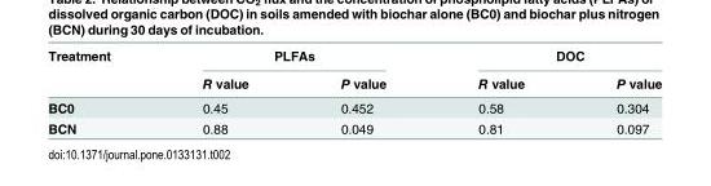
<table><thead><tr><td rowspan="2">Treatment</td><td colspan="2">PLFAs</td><td colspan="2">DOC</td></tr><tr><td>R value</td><td>P value</td><td>R value</td><td>P value</td></tr></thead><tbody><tr><td>BC0</td><td>0.45</td><td>0.452</td><td>0.58</td><td>0.304</td></tr><tr><td>BCN</td><td>0.88</td><td>0.049</td><td>0.81</td><td>0.097</td></tr></tbody></table>